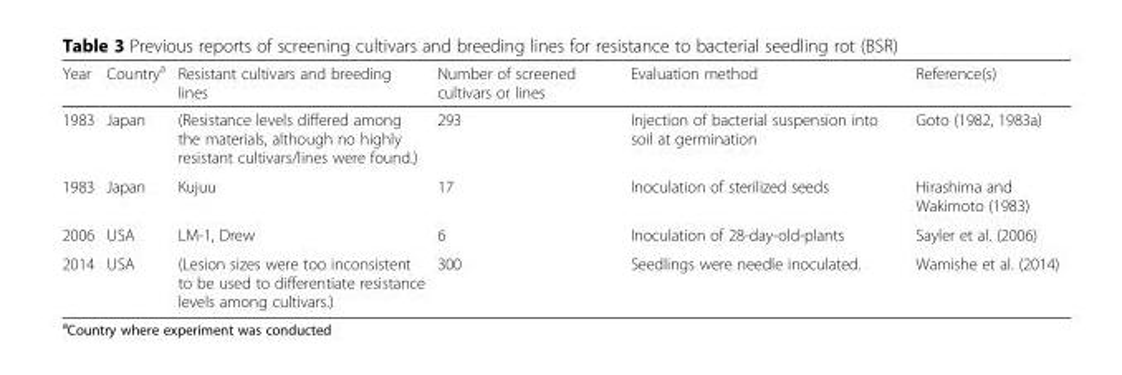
<table><thead><tr><td>Year</td><td>Country<sup>a</sup></td><td>Resistant cultivars and breeding lines</td><td>Number of screened cultivars or lines</td><td>Evaluation method</td><td>Reference(s)</td></tr></thead><tbody><tr><td>1983</td><td>Japan</td><td>(Resistance levels differed among the materials, although no highly resistant cultivars/lines were found.)</td><td>293</td><td>Injection of bacterial suspension into soil at germination</td><td>Goto (1982, 1983a)</td></tr><tr><td>1983</td><td>Japan</td><td>Kujuu</td><td>17</td><td>Inoculation of sterilized seeds</td><td>Hirashima and Wakimoto (1983)</td></tr><tr><td>2006</td><td>USA</td><td>LM-1, Drew</td><td>6</td><td>Inoculation of 28-day-old-plants</td><td>Sayler et al. (2006)</td></tr><tr><td>2014</td><td>USA</td><td>(Lesion sizes were too inconsistent to be used to differentiate resistance levels among cultivars.)</td><td>300</td><td>Seedlings were needle inoculated.</td><td>Wamishe et al. (2014)</td></tr></tbody></table>